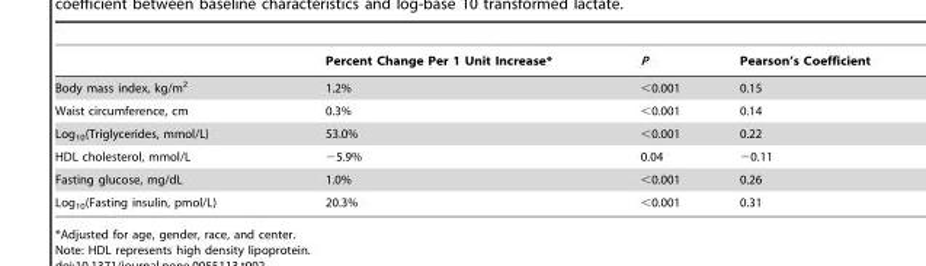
<table><thead><tr><td></td><td>Percent Change Per 1 Unit Increase*</td><td>P</td><td>Pearson’s Coefficient</td></tr></thead><tbody><tr><td>Body mass index, kg/m<sup>2</sup></td><td>1.2%</td><td>&lt;0.001</td><td>0.15</td></tr><tr><td>Waist circumference, cm</td><td>0.3%</td><td>&lt;0.001</td><td>0.14</td></tr><tr><td>Log<sub>10</sub>(Triglycerides, mmol/L)</td><td>53.0%</td><td>&lt;0.001</td><td>0.22</td></tr><tr><td>HDL cholesterol, mmol/L</td><td>−5.9%</td><td>0.04</td><td>−0.11</td></tr><tr><td>Fasting glucose, mg/dL</td><td>1.0%</td><td>&lt;0.001</td><td>0.26</td></tr><tr><td>Log<sub>10</sub>(Fasting insulin, pmol/L)</td><td>20.3%</td><td>&lt;0.001</td><td>0.31</td></tr></tbody></table>